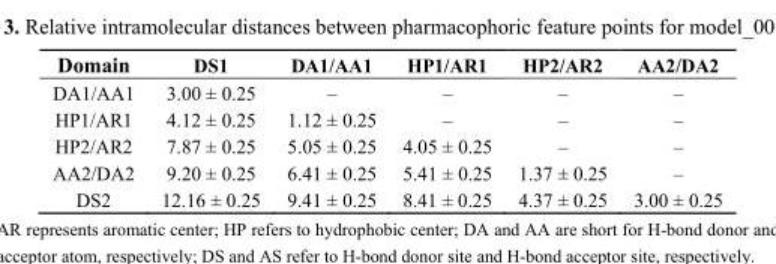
<table><thead><tr><td>Domain</td><td>DS1</td><td>DA1/AA1</td><td>HP1/AR1</td><td>HP2/AR2</td><td>AA2/DA2</td></tr></thead><tbody><tr><td>DA1/AA1</td><td>3.00 ± 0.25</td><td>–</td><td>–</td><td>–</td><td>–</td></tr><tr><td>HP1/AR1</td><td>4.12 ± 0.25</td><td>1.12 ± 0.25</td><td>–</td><td>–</td><td>–</td></tr><tr><td>HP2/AR2</td><td>7.87 ± 0.25</td><td>5.05 ± 0.25</td><td>4.05 ± 0.25</td><td>–</td><td>–</td></tr><tr><td>AA2/DA2</td><td>9.20 ± 0.25</td><td>6.41 ± 0.25</td><td>5.41 ± 0.25</td><td>1.37 ± 0.25</td><td>–</td></tr><tr><td>DS2</td><td>12.16 ± 0.25</td><td>9.41 ± 0.25</td><td>8.41 ± 0.25</td><td>4.37 ± 0.25</td><td>3.00 ± 0.25</td></tr></tbody></table>